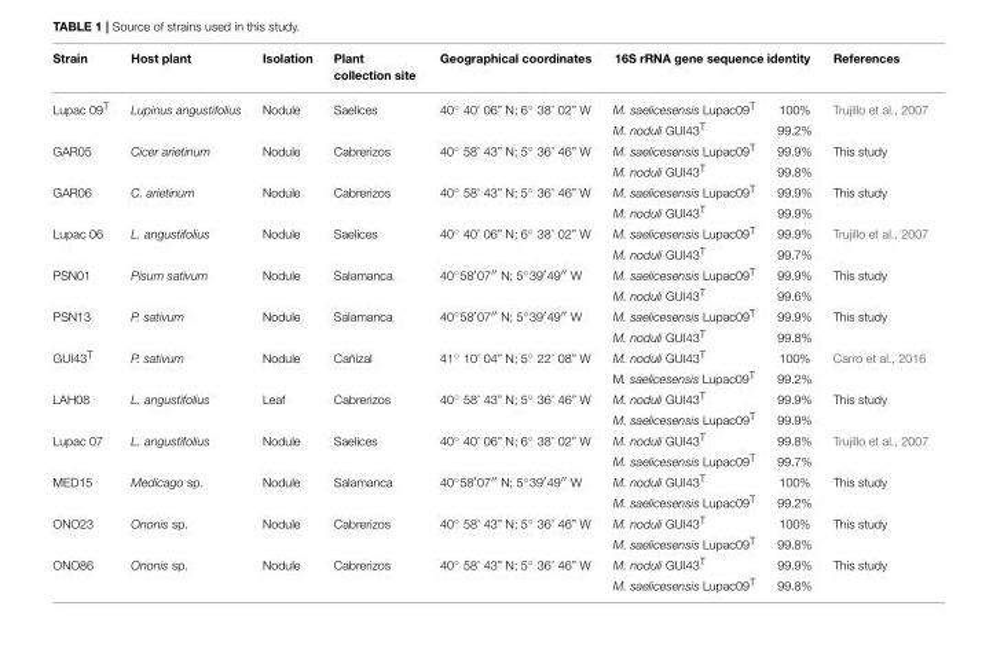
<table><thead><tr><td rowspan="2">Strain Lupac 09<sup>T</sup></td><td rowspan="2">Host plant Lupinus angustifolius</td><td rowspan="2">Isolation Nodule</td><td rowspan="2">Plant collection site Saelices</td><td rowspan="2">Geographical coordinates 40◦ 40’ 06” N; 6◦ 38’ 02” W</td><td colspan="2">16S rRNA gene sequence identity</td><td rowspan="2">References Trujillo et al., 2007</td></tr><tr><td>M. saelicesensis Lupac09T</td><td>100%</td></tr></thead><tbody><tr><td></td><td></td><td></td><td></td><td></td><td>M. noduli GUI43<sup>T</sup></td><td>99.2%</td><td></td></tr><tr><td rowspan="2">GAR05</td><td>Cicer arietinum</td><td>Nodule</td><td>Cabrerizos</td><td>40◦ 58’ 43” N; 5◦ 36’ 46” W</td><td>M. saelicesensis Lupac09T</td><td>99.9%</td><td>This study</td></tr><tr><td></td><td></td><td></td><td></td><td>M. noduli GUI43<sup>T</sup></td><td>99.8%</td><td></td></tr><tr><td rowspan="2">GAR06</td><td>C. arietinum</td><td>Nodule</td><td>Cabrerizos</td><td>40◦ 58’ 43” N; 5◦ 36’ 46” W</td><td>M. saelicesensis Lupac09T</td><td>99.9%</td><td>This study</td></tr><tr><td></td><td></td><td></td><td></td><td>M. noduli GUI43<sup>T</sup></td><td>99.9%</td><td></td></tr><tr><td rowspan="2">Lupac 06</td><td>L. angustifolius</td><td>Nodule</td><td>Saelices</td><td>40◦ 40’ 06” N; 6◦ 38’ 02” W</td><td>M. saelicesensis Lupac09T</td><td>99.9%</td><td>Trujillo et al., 2007</td></tr><tr><td></td><td></td><td></td><td></td><td>M. noduli GUI43<sup>T</sup></td><td>99.7%</td><td></td></tr><tr><td rowspan="2">PSN01</td><td>Pisum sativum</td><td>Nodule</td><td>Salamanca</td><td>40◦58′07′′ N; 5◦39′49′′ W</td><td>M. saelicesensis Lupac09T</td><td>99.9%</td><td>This study</td></tr><tr><td></td><td></td><td></td><td></td><td>M. noduli GUI43<sup>T</sup></td><td>99.6%</td><td></td></tr><tr><td rowspan="2">PSN13</td><td>P. sativum</td><td>Nodule</td><td>Salamanca</td><td>40◦58′07′′ N; 5◦39′49′′ W</td><td>M. saelicesensis Lupac09T</td><td>99.9%</td><td>This study</td></tr><tr><td></td><td></td><td></td><td></td><td>M. noduli GUI43<sup>T</sup></td><td>99.8%</td><td></td></tr><tr><td rowspan="2">GUI43<sup>T</sup></td><td>P. sativum</td><td>Nodule</td><td>Cañizal</td><td>41◦ 10’ 04” N; 5◦ 22’ 08” W</td><td>M. noduli GUI43<sup>T</sup></td><td>100%</td><td>Carro et al., 2016</td></tr><tr><td></td><td></td><td></td><td></td><td>M. saelicesensis Lupac09<sup>T</sup></td><td>99.2%</td><td></td></tr><tr><td rowspan="2">LAH08</td><td>L. angustifolius</td><td>Leaf</td><td>Cabrerizos</td><td>40◦ 58’ 43” N; 5◦ 36’ 46” W</td><td>M. noduli GUI43<sup>T</sup></td><td>99.9%</td><td>This study</td></tr><tr><td></td><td></td><td></td><td></td><td>M. saelicesensis Lupac09<sup>T</sup></td><td>99.9%</td><td></td></tr><tr><td rowspan="2">Lupac 07</td><td>L. angustifolius</td><td>Nodule</td><td>Saelices</td><td>40◦ 40’ 06” N; 6◦ 38’ 02” W</td><td>M. noduli GUI43<sup>T</sup></td><td>99.8%</td><td>Trujillo et al., 2007</td></tr><tr><td></td><td></td><td></td><td></td><td>M. saelicesensis Lupac09<sup>T</sup></td><td>99.7%</td><td></td></tr><tr><td rowspan="2">MED15</td><td>Medicago sp.</td><td>Nodule</td><td>Salamanca</td><td>40◦58′07′′ N; 5◦39′49′′ W</td><td>M. noduli GUI43<sup>T</sup></td><td>100%</td><td>This study</td></tr><tr><td></td><td></td><td></td><td></td><td>M. saelicesensis Lupac09<sup>T</sup></td><td>99.2%</td><td></td></tr><tr><td rowspan="2">ONO23</td><td>Ononis sp.</td><td>Nodule</td><td>Cabrerizos</td><td>40◦ 58’ 43” N; 5◦ 36’ 46” W</td><td>M. noduli GUI43<sup>T</sup></td><td>100%</td><td>This study</td></tr><tr><td></td><td></td><td></td><td></td><td>M. saelicesensis Lupac09<sup>T</sup></td><td>99.8%</td><td></td></tr><tr><td rowspan="2">ONO86</td><td>Ononis sp.</td><td>Nodule</td><td>Cabrerizos</td><td>40◦ 58’ 43” N; 5◦ 36’ 46” W</td><td>M. noduli GUI43<sup>T</sup></td><td>99.9%</td><td>This study</td></tr><tr><td></td><td></td><td></td><td></td><td>M. saelicesensis Lupac09<sup>T</sup></td><td>99.8%</td><td></td></tr></tbody></table>